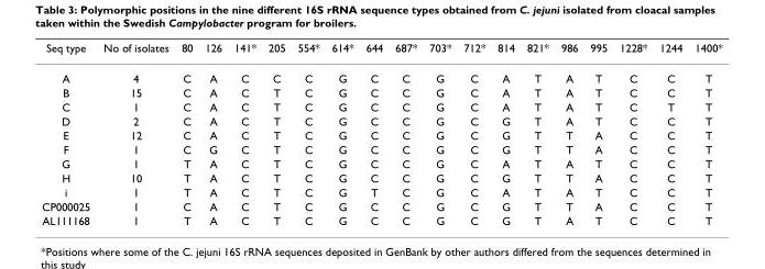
<table><thead><tr><td>Seq type</td><td>No of isolates</td><td>80</td><td>126</td><td>141*</td><td>205</td><td>554*</td><td>614*</td><td>644</td><td>687*</td><td>703*</td><td>712*</td><td>814</td><td>821*</td><td>986</td><td>995</td><td>1228*</td><td>1244</td><td>1400*</td></tr></thead><tbody><tr><td>A</td><td>4</td><td>C</td><td>A</td><td>C</td><td>C</td><td>C</td><td>G</td><td>C</td><td>C</td><td>G</td><td>C</td><td>A</td><td>T</td><td>A</td><td>T</td><td>C</td><td>C</td><td>T</td></tr><tr><td>B</td><td>15</td><td>C</td><td>A</td><td>C</td><td>T</td><td>C</td><td>G</td><td>C</td><td>C</td><td>G</td><td>C</td><td>A</td><td>T</td><td>A</td><td>T</td><td>C</td><td>C</td><td>T</td></tr><tr><td>C</td><td>1</td><td>C</td><td>A</td><td>C</td><td>T</td><td>C</td><td>G</td><td>C</td><td>C</td><td>G</td><td>C</td><td>A</td><td>T</td><td>A</td><td>T</td><td>C</td><td>T</td><td>T</td></tr><tr><td>D</td><td>2</td><td>C</td><td>A</td><td>C</td><td>T</td><td>C</td><td>G</td><td>C</td><td>C</td><td>G</td><td>C</td><td>G</td><td>T</td><td>A</td><td>T</td><td>C</td><td>C</td><td>T</td></tr><tr><td>E</td><td>12</td><td>C</td><td>A</td><td>C</td><td>T</td><td>C</td><td>G</td><td>C</td><td>C</td><td>G</td><td>C</td><td>G</td><td>T</td><td>T</td><td>A</td><td>C</td><td>C</td><td>T</td></tr><tr><td>F</td><td>1</td><td>C</td><td>G</td><td>C</td><td>T</td><td>C</td><td>G</td><td>C</td><td>C</td><td>G</td><td>C</td><td>G</td><td>T</td><td>T</td><td>A</td><td>C</td><td>C</td><td>T</td></tr><tr><td>G</td><td>1</td><td>T</td><td>A</td><td>C</td><td>T</td><td>C</td><td>G</td><td>C</td><td>C</td><td>G</td><td>C</td><td>A</td><td>T</td><td>A</td><td>T</td><td>C</td><td>C</td><td>T</td></tr><tr><td>H</td><td>10</td><td>T</td><td>A</td><td>C</td><td>T</td><td>C</td><td>G</td><td>C</td><td>C</td><td>G</td><td>C</td><td>G</td><td>T</td><td>T</td><td>A</td><td>C</td><td>C</td><td>T</td></tr><tr><td>i</td><td>1</td><td>T</td><td>A</td><td>C</td><td>T</td><td>C</td><td>G</td><td>T</td><td>C</td><td>G</td><td>C</td><td>A</td><td>T</td><td>A</td><td>T</td><td>C</td><td>C</td><td>T</td></tr><tr><td>CP000025</td><td>1</td><td>C</td><td>A</td><td>C</td><td>T</td><td>C</td><td>G</td><td>C</td><td>C</td><td>G</td><td>C</td><td>G</td><td>T</td><td>T</td><td>A</td><td>C</td><td>C</td><td>T</td></tr><tr><td>AL111168</td><td>1</td><td>T</td><td>A</td><td>C</td><td>T</td><td>C</td><td>G</td><td>C</td><td>C</td><td>G</td><td>C</td><td>G</td><td>T</td><td>A</td><td>T</td><td>C</td><td>C</td><td>T</td></tr></tbody></table>